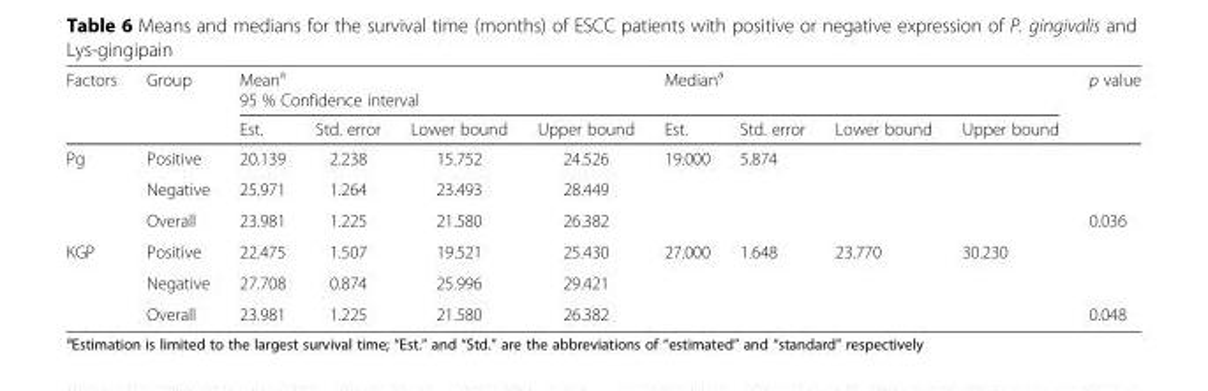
<table><thead><tr><td rowspan="3">Factors</td><td rowspan="3">Group</td><td colspan="4">Mean<sup>a</sup></td><td colspan="4">Median<sup>a</sup></td><td rowspan="3">p value</td></tr><tr><td colspan="8">95 % Confidence interval</td></tr><tr><td>Est.</td><td>Std. error</td><td>Lower bound</td><td>Upper bound</td><td>Est.</td><td>Std. error</td><td>Lower bound</td><td>Upper bound</td></tr></thead><tbody><tr><td rowspan="3">Pg</td><td>Positive</td><td>20.139</td><td>2.238</td><td>15.752</td><td>24.526</td><td>19.000</td><td>5.874</td><td></td><td></td><td></td></tr><tr><td>Negative</td><td>25.971</td><td>1.264</td><td>23.493</td><td>28.449</td><td></td><td></td><td></td><td></td><td></td></tr><tr><td>Overall</td><td>23.981</td><td>1.225</td><td>21.580</td><td>26.382</td><td></td><td></td><td></td><td></td><td>0.036</td></tr><tr><td rowspan="3">KGP</td><td>Positive</td><td>22.475</td><td>1.507</td><td>19.521</td><td>25.430</td><td>27.000</td><td>1.648</td><td>23.770</td><td>30.230</td><td></td></tr><tr><td>Negative</td><td>27.708</td><td>0.874</td><td>25.996</td><td>29.421</td><td></td><td></td><td></td><td></td><td></td></tr><tr><td>Overall</td><td>23.981</td><td>1.225</td><td>21.580</td><td>26.382</td><td></td><td></td><td></td><td></td><td>0.048</td></tr></tbody></table>